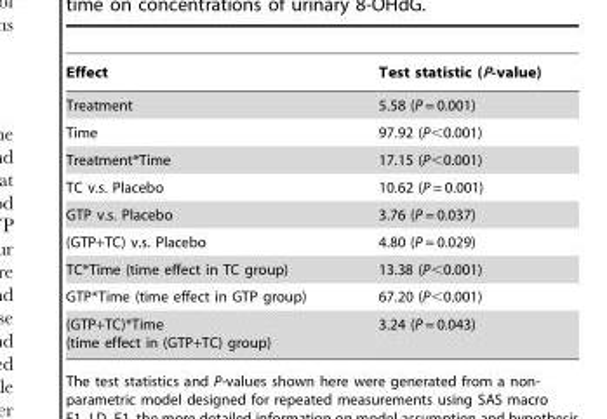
<table><thead><tr><td>Effect</td><td>Test statistic (P-value)</td></tr></thead><tbody><tr><td>Treatment</td><td>5.58 (P = 0.001)</td></tr><tr><td>Time</td><td>97.92 (P&lt;0.001)</td></tr><tr><td>Treatment*Time</td><td>17.15 (P&lt;0.001)</td></tr><tr><td>TC v.s. Placebo</td><td>10.62 (P = 0.001)</td></tr><tr><td>GTP v.s. Placebo</td><td>3.76 (P = 0.037)</td></tr><tr><td>(GTP+TC) v.s. Placebo</td><td>4.80 (P = 0.029)</td></tr><tr><td>TC*Time (time effect in TC group)</td><td>13.38 (P&lt;0.001)</td></tr><tr><td>GTP*Time (time effect in GTP group)</td><td>67.20 (P&lt;0.001)</td></tr><tr><td>(GTP+TC)*Time (time effect in (GTP+TC) group)</td><td>3.24 (P = 0.043)</td></tr></tbody></table>